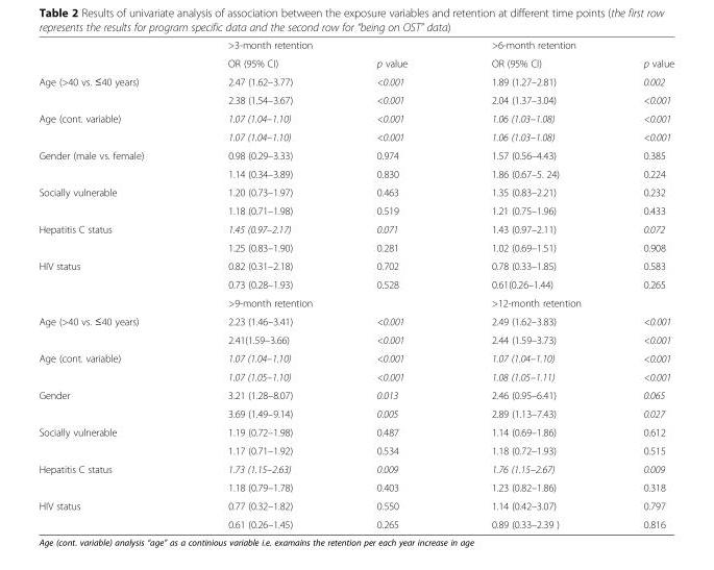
<table><thead><tr><td rowspan="2"></td><td colspan="2">&gt;3-month retention</td><td colspan="2">&gt;6-month retention</td></tr><tr><td>OR (95% CI)</td><td>p value</td><td>OR (95% CI)</td><td>p value</td></tr></thead><tbody><tr><td rowspan="2">Age (&gt;40 vs. ≤40 years)</td><td>2.47 (1.62–3.77)</td><td>&lt;0.001</td><td>1.89 (1.27–2.81)</td><td>0.002</td></tr><tr><td>2.38 (1.54–3.67)</td><td>&lt;0.001</td><td>2.04 (1.37–3.04)</td><td>&lt;0.001</td></tr><tr><td rowspan="2">Age (cont. variable)</td><td>1.07 (1.04–1.10)</td><td>&lt;0.001</td><td>1.06 (1.03–1.08)</td><td>&lt;0.001</td></tr><tr><td>1.07 (1.04–1.10)</td><td>&lt;0.001</td><td>1.06 (1.03–1.08)</td><td>&lt;0.001</td></tr><tr><td rowspan="2">Gender (male vs. female)</td><td>0.98 (0.29–3.33)</td><td>0.974</td><td>1.57 (0.56–4.43)</td><td>0.385</td></tr><tr><td>1.14 (0.34–3.89)</td><td>0.830</td><td>1.86 (0.67–5. 24)</td><td>0.224</td></tr><tr><td rowspan="2">Socially vulnerable</td><td>1.20 (0.73–1.97)</td><td>0.463</td><td>1.35 (0.83–2.21)</td><td>0.232</td></tr><tr><td>1.18 (0.71–1.98)</td><td>0.519</td><td>1.21 (0.75–1.96)</td><td>0.433</td></tr><tr><td rowspan="2">Hepatitis C status</td><td>1.45 (0.97–2.17)</td><td>0.071</td><td>1.43 (0.97–2.11)</td><td>0.072</td></tr><tr><td>1.25 (0.83–1.90)</td><td>0.281</td><td>1.02 (0.69–1.51)</td><td>0.908</td></tr><tr><td rowspan="3">HIV status</td><td>0.82 (0.31–2.18)</td><td>0.702</td><td>0.78 (0.33–1.85)</td><td>0.583</td></tr><tr><td>0.73 (0.28–1.93)</td><td>0.528</td><td>0.61(0.26–1.44)</td><td>0.265</td></tr><tr><td colspan="2">&gt;9-month retention</td><td colspan="2">&gt;12-month retention</td></tr><tr><td rowspan="2">Age (&gt;40 vs. ≤40 years)</td><td>2.23 (1.46–3.41)</td><td>&lt;0.001</td><td>2.49 (1.62–3.83)</td><td>&lt;0.001</td></tr><tr><td>2.41(1.59–3.66)</td><td>&lt;0.001</td><td>2.44 (1.59–3.73)</td><td>&lt;0.001</td></tr><tr><td rowspan="2">Age (cont. variable)</td><td>1.07 (1.04–1.10)</td><td>&lt;0.001</td><td>1.07 (1.04–1.10)</td><td>&lt;0.001</td></tr><tr><td>1.07 (1.05–1.10)</td><td>&lt;0.001</td><td>1.08 (1.05–1.11)</td><td>&lt;0.001</td></tr><tr><td rowspan="2">Gender</td><td>3.21 (1.28–8.07)</td><td>0.013</td><td>2.46 (0.95–6.41)</td><td>0.065</td></tr><tr><td>3.69 (1.49–9.14)</td><td>0.005</td><td>2.89 (1.13–7.43)</td><td>0.027</td></tr><tr><td rowspan="2">Socially vulnerable</td><td>1.19 (0.72–1.98)</td><td>0.487</td><td>1.14 (0.69–1.86)</td><td>0.612</td></tr><tr><td>1.17 (0.71–1.92)</td><td>0.534</td><td>1.18 (0.72–1.93)</td><td>0.515</td></tr><tr><td rowspan="2">Hepatitis C status</td><td>1.73 (1.15–2.63)</td><td>0.009</td><td>1.76 (1.15–2.67)</td><td>0.009</td></tr><tr><td>1.18 (0.79–1.78)</td><td>0.403</td><td>1.23 (0.82–1.86)</td><td>0.318</td></tr><tr><td rowspan="2">HIV status</td><td>0.77 (0.32–1.82)</td><td>0.550</td><td>1.14 (0.42–3.07)</td><td>0.797</td></tr><tr><td>0.61 (0.26–1.45)</td><td>0.265</td><td>0.89 (0.33–2.39 )</td><td>0.816</td></tr></tbody></table>